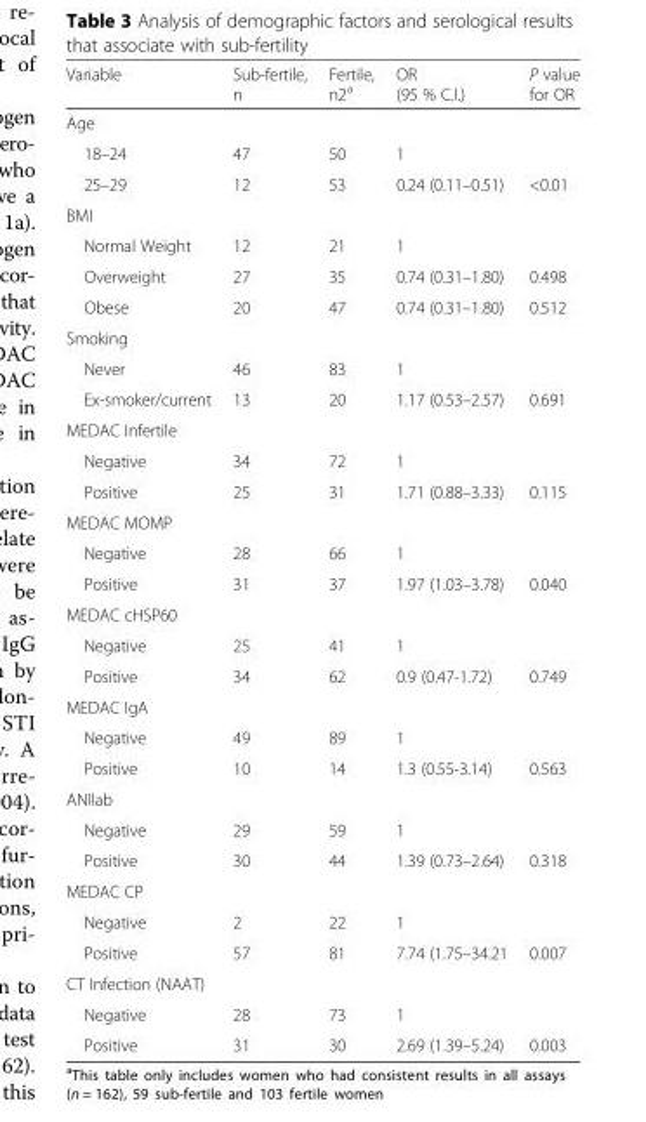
<table><thead><tr><td>Variable</td><td>Sub-fertile, n</td><td>Fertile, n2<sup>a</sup></td><td>OR (95 % C.I.)</td><td>P value for OR</td></tr></thead><tbody><tr><td colspan="5">Age</td></tr><tr><td>18–24</td><td>47</td><td>50</td><td>1</td><td></td></tr><tr><td>25–29</td><td>12</td><td>53</td><td>0.24 (0.11–0.51)</td><td>&lt;0.01</td></tr><tr><td colspan="5">BMI</td></tr><tr><td>Normal Weight</td><td>12</td><td>21</td><td>1</td><td></td></tr><tr><td>Overweight</td><td>27</td><td>35</td><td>0.74 (0.31–1.80)</td><td>0.498</td></tr><tr><td>Obese</td><td>20</td><td>47</td><td>0.74 (0.31–1.80)</td><td>0.512</td></tr><tr><td colspan="5">Smoking</td></tr><tr><td>Never</td><td>46</td><td>83</td><td>1</td><td></td></tr><tr><td>Ex-smoker/current</td><td>13</td><td>20</td><td>1.17 (0.53–2.57)</td><td>0.691</td></tr><tr><td colspan="5">MEDAC Infertile</td></tr><tr><td>Negative</td><td>34</td><td>72</td><td>1</td><td></td></tr><tr><td>Positive</td><td>25</td><td>31</td><td>1.71 (0.88–3.33)</td><td>0.115</td></tr><tr><td colspan="5">MEDAC MOMP</td></tr><tr><td>Negative</td><td>28</td><td>66</td><td>1</td><td></td></tr><tr><td>Positive</td><td>31</td><td>37</td><td>1.97 (1.03–3.78)</td><td>0.040</td></tr><tr><td colspan="5">MEDAC cHSP60</td></tr><tr><td>Negative</td><td>25</td><td>41</td><td>1</td><td></td></tr><tr><td>Positive</td><td>34</td><td>62</td><td>0.9 (0.47-1.72)</td><td>0.749</td></tr><tr><td colspan="5">MEDAC IgA</td></tr><tr><td>Negative</td><td>49</td><td>89</td><td>1</td><td></td></tr><tr><td>Positive</td><td>10</td><td>14</td><td>1.3 (0.55-3.14)</td><td>0.563</td></tr><tr><td colspan="5">ANIlab</td></tr><tr><td>Negative</td><td>29</td><td>59</td><td>1</td><td></td></tr><tr><td>Positive</td><td>30</td><td>44</td><td>1.39 (0.73–2.64)</td><td>0.318</td></tr><tr><td colspan="5">MEDAC CP</td></tr><tr><td>Negative</td><td>2</td><td>22</td><td>1</td><td></td></tr><tr><td>Positive</td><td>57</td><td>81</td><td>7.74 (1.75–34.21</td><td>0.007</td></tr><tr><td colspan="5">CT Infection (NAAT)</td></tr><tr><td>Negative</td><td>28</td><td>73</td><td>1</td><td></td></tr><tr><td>Positive</td><td>31</td><td>30</td><td>2.69 (1.39–5.24)</td><td>0.003</td></tr></tbody></table>